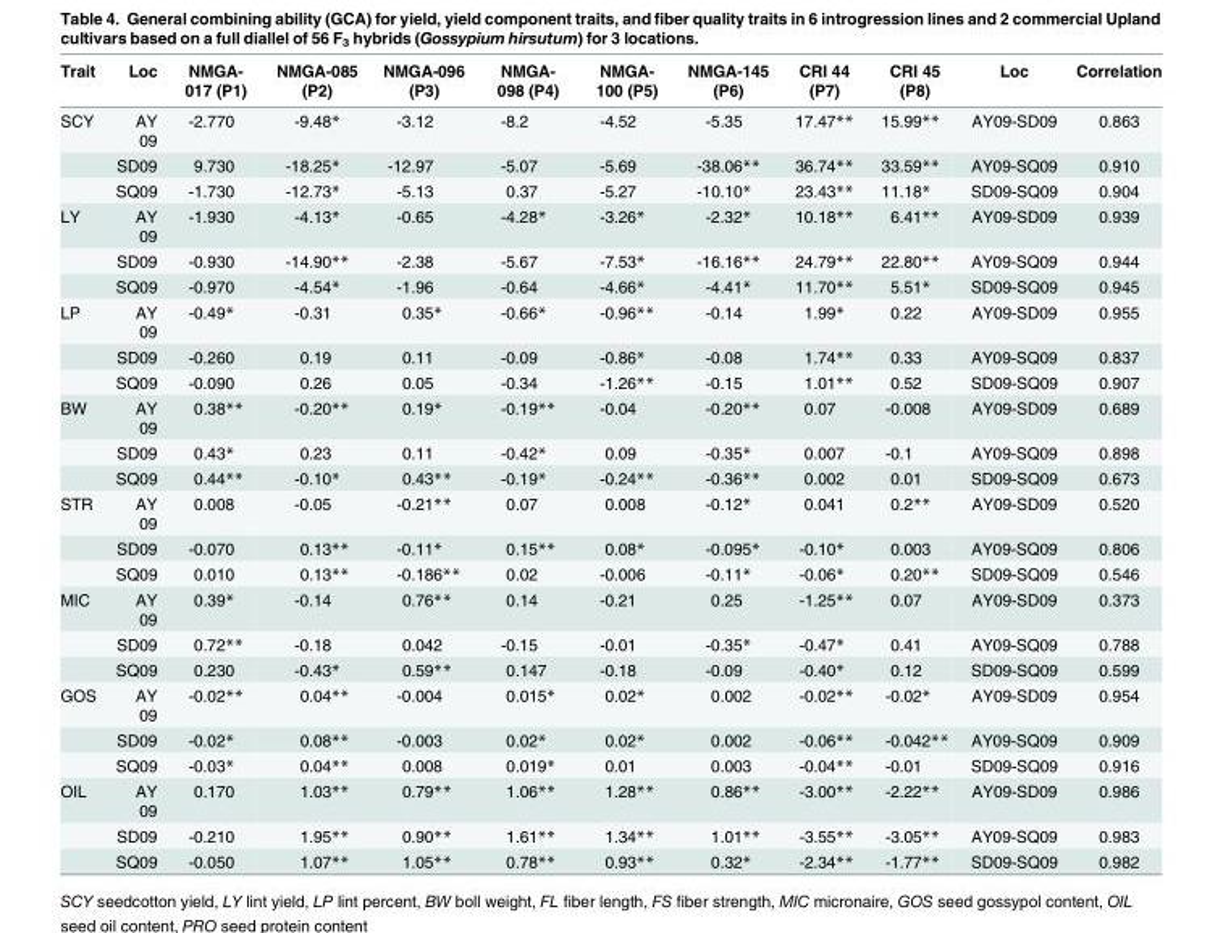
<table><thead><tr><td>Trait</td><td>Loc</td><td>NMGA- 017 (P1)</td><td>NMGA-085 (P2)</td><td>NMGA-096 (P3)</td><td>NMGA- 098 (P4)</td><td>NMGA- 100 (P5)</td><td>NMGA-145 (P6)</td><td>CRI 44 (P7)</td><td>CRI 45 (P8)</td><td>Loc</td><td>Correlation</td></tr></thead><tbody><tr><td rowspan="3">SCY</td><td>AY 09</td><td>-2.770</td><td>-9.48*</td><td>-3.12</td><td>-8.2</td><td>-4.52</td><td>-5.35</td><td>17.47**</td><td>15.99**</td><td>AY09-SD09</td><td>0.863</td></tr><tr><td>SD09</td><td>9.730</td><td>-18.25*</td><td>-12.97</td><td>-5.07</td><td>-5.69</td><td>-38.06**</td><td>36.74**</td><td>33.59**</td><td>AY09-SQ09</td><td>0.910</td></tr><tr><td>SQ09</td><td>-1.730</td><td>-12.73*</td><td>-5.13</td><td>0.37</td><td>-5.27</td><td>-10.10*</td><td>23.43**</td><td>11.18*</td><td>SD09-SQ09</td><td>0.904</td></tr><tr><td rowspan="3">LY</td><td>AY 09</td><td>-1.930</td><td>-4.13*</td><td>-0.65</td><td>-4.28*</td><td>-3.26*</td><td>-2.32*</td><td>10.18**</td><td>6.41**</td><td>AY09-SD09</td><td>0.939</td></tr><tr><td>SD09</td><td>-0.930</td><td>-14.90**</td><td>-2.38</td><td>-5.67</td><td>-7.53*</td><td>-16.16**</td><td>24.79**</td><td>22.80**</td><td>AY09-SQ09</td><td>0.944</td></tr><tr><td>SQ09</td><td>-0.970</td><td>-4.54*</td><td>-1.96</td><td>-0.64</td><td>-4.66*</td><td>-4.41*</td><td>11.70**</td><td>5.51*</td><td>SD09-SQ09</td><td>0.945</td></tr><tr><td rowspan="3">LP</td><td>AY 09</td><td>-0.49*</td><td>-0.31</td><td>0.35*</td><td>-0.66*</td><td>-0.96**</td><td>-0.14</td><td>1.99*</td><td>0.22</td><td>AY09-SD09</td><td>0.955</td></tr><tr><td>SD09</td><td>-0.260</td><td>0.19</td><td>0.11</td><td>-0.09</td><td>-0.86*</td><td>-0.08</td><td>1.74**</td><td>0.33</td><td>AY09-SQ09</td><td>0.837</td></tr><tr><td>SQ09</td><td>-0.090</td><td>0.26</td><td>0.05</td><td>-0.34</td><td>-1.26**</td><td>-0.15</td><td>1.01**</td><td>0.52</td><td>SD09-SQ09</td><td>0.907</td></tr><tr><td rowspan="3">BW</td><td>AY 09</td><td>0.38**</td><td>-0.20**</td><td>0.19*</td><td>-0.19**</td><td>-0.04</td><td>-0.20**</td><td>0.07</td><td>-0.008</td><td>AY09-SD09</td><td>0.689</td></tr><tr><td>SD09</td><td>0.43*</td><td>0.23</td><td>0.11</td><td>-0.42*</td><td>0.09</td><td>-0.35*</td><td>0.007</td><td>-0.1</td><td>AY09-SQ09</td><td>0.898</td></tr><tr><td>SQ09</td><td>0.44**</td><td>-0.10*</td><td>0.43**</td><td>-0.19*</td><td>-0.24**</td><td>-0.36**</td><td>0.002</td><td>0.01</td><td>SD09-SQ09</td><td>0.673</td></tr><tr><td rowspan="3">STR</td><td>AY 09</td><td>0.008</td><td>-0.05</td><td>-0.21**</td><td>0.07</td><td>0.008</td><td>-0.12*</td><td>0.041</td><td>0.2**</td><td>AY09-SD09</td><td>0.520</td></tr><tr><td>SD09</td><td>-0.070</td><td>0.13**</td><td>-0.11*</td><td>0.15**</td><td>0.08*</td><td>-0.095*</td><td>-0.10*</td><td>0.003</td><td>AY09-SQ09</td><td>0.806</td></tr><tr><td>SQ09</td><td>0.010</td><td>0.13**</td><td>-0.186**</td><td>0.02</td><td>-0.006</td><td>-0.11*</td><td>-0.06*</td><td>0.20**</td><td>SD09-SQ09</td><td>0.546</td></tr><tr><td rowspan="3">MIC</td><td>AY 09</td><td>0.39*</td><td>-0.14</td><td>0.76**</td><td>0.14</td><td>-0.21</td><td>0.25</td><td>-1.25**</td><td>0.07</td><td>AY09-SD09</td><td>0.373</td></tr><tr><td>SD09</td><td>0.72**</td><td>-0.18</td><td>0.042</td><td>-0.15</td><td>-0.01</td><td>-0.35*</td><td>-0.47*</td><td>0.41</td><td>AY09-SQ09</td><td>0.788</td></tr><tr><td>SQ09</td><td>0.230</td><td>-0.43*</td><td>0.59**</td><td>0.147</td><td>-0.18</td><td>-0.09</td><td>-0.40*</td><td>0.12</td><td>SD09-SQ09</td><td>0.599</td></tr><tr><td rowspan="3">GOS</td><td>AY 09</td><td>-0.02**</td><td>0.04**</td><td>-0.004</td><td>0.015*</td><td>0.02*</td><td>0.002</td><td>-0.02**</td><td>-0.02*</td><td>AY09-SD09</td><td>0.954</td></tr><tr><td>SD09</td><td>-0.02*</td><td>0.08**</td><td>-0.003</td><td>0.02*</td><td>0.02*</td><td>0.002</td><td>-0.06**</td><td>-0.042**</td><td>AY09-SQ09</td><td>0.909</td></tr><tr><td>SQ09</td><td>-0.03*</td><td>0.04**</td><td>0.008</td><td>0.019*</td><td>0.01</td><td>0.003</td><td>-0.04**</td><td>-0.01</td><td>SD09-SQ09</td><td>0.916</td></tr><tr><td rowspan="3">OIL</td><td>AY 09</td><td>0.170</td><td>1.03**</td><td>0.79**</td><td>1.06**</td><td>1.28**</td><td>0.86**</td><td>-3.00**</td><td>-2.22**</td><td>AY09-SD09</td><td>0.986</td></tr><tr><td>SD09</td><td>-0.210</td><td>1.95**</td><td>0.90**</td><td>1.61**</td><td>1.34**</td><td>1.01**</td><td>-3.55**</td><td>-3.05**</td><td>AY09-SQ09</td><td>0.983</td></tr><tr><td>SQ09</td><td>-0.050</td><td>1.07**</td><td>1.05**</td><td>0.78**</td><td>0.93**</td><td>0.32*</td><td>-2.34**</td><td>-1.77**</td><td>SD09-SQ09</td><td>0.982</td></tr></tbody></table>